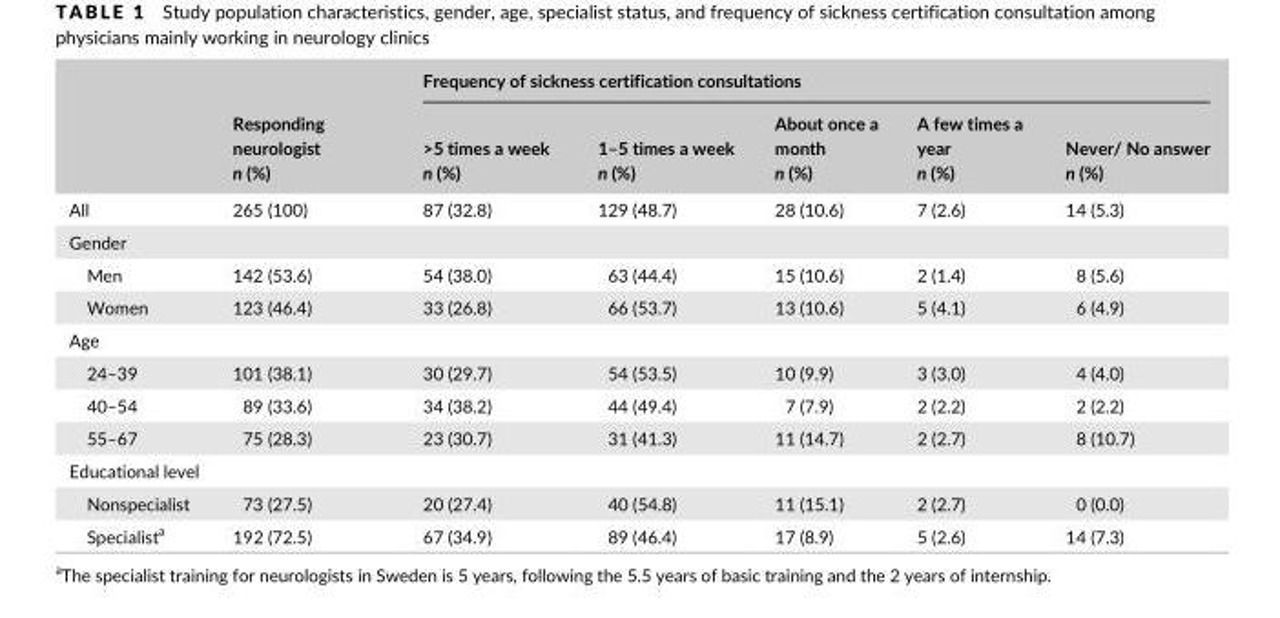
<table><thead><tr><td rowspan="2"></td><td rowspan="2">Responding neurologist n (%)</td><td colspan="5">Frequency of sickness certification consultations</td></tr><tr><td>&gt;5 times a week n (%)</td><td>1–5 times a week n (%)</td><td>About once a month n (%)</td><td>A few times a year n (%)</td><td>Never/ No answer n (%)</td></tr></thead><tbody><tr><td>All</td><td>265 (100)</td><td>87 (32.8)</td><td>129 (48.7)</td><td>28 (10.6)</td><td>7 (2.6)</td><td>14 (5.3)</td></tr><tr><td colspan="7">Gender</td></tr><tr><td>Men</td><td>142 (53.6)</td><td>54 (38.0)</td><td>63 (44.4)</td><td>15 (10.6)</td><td>2 (1.4)</td><td>8 (5.6)</td></tr><tr><td>Women</td><td>123 (46.4)</td><td>33 (26.8)</td><td>66 (53.7)</td><td>13 (10.6)</td><td>5 (4.1)</td><td>6 (4.9)</td></tr><tr><td colspan="7">Age</td></tr><tr><td>24–39</td><td>101 (38.1)</td><td>30 (29.7)</td><td>54 (53.5)</td><td>10 (9.9)</td><td>3 (3.0)</td><td>4 (4.0)</td></tr><tr><td>40–54</td><td>89 (33.6)</td><td>34 (38.2)</td><td>44 (49.4)</td><td>7 (7.9)</td><td>2 (2.2)</td><td>2 (2.2)</td></tr><tr><td>55–67</td><td>75 (28.3)</td><td>23 (30.7)</td><td>31 (41.3)</td><td>11 (14.7)</td><td>2 (2.7)</td><td>8 (10.7)</td></tr><tr><td colspan="7">Educational level</td></tr><tr><td>Nonspecialist</td><td>73 (27.5)</td><td>20 (27.4)</td><td>40 (54.8)</td><td>11 (15.1)</td><td>2 (2.7)</td><td>0 (0.0)</td></tr><tr><td>Specialist<sup>a</sup></td><td>192 (72.5)</td><td>67 (34.9)</td><td>89 (46.4)</td><td>17 (8.9)</td><td>5 (2.6)</td><td>14 (7.3)</td></tr></tbody></table>